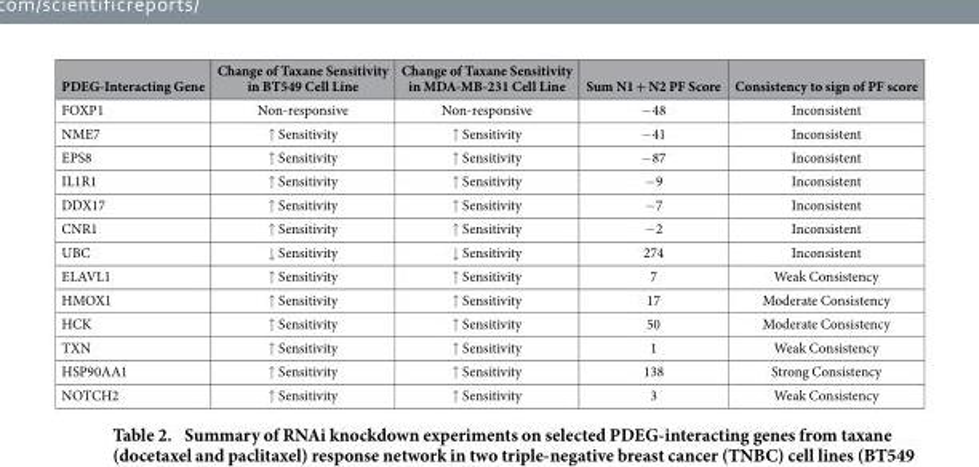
<table><thead><tr><td>PDEG-Interacting Gene</td><td>Change of Taxane Sensitivity in BT549 Cell Line</td><td>Change of Taxane Sensitivity in MDA-MB-231 Cell Line</td><td>Sum N1 + N2 PF Score</td><td>Consistency to sign of PF score</td></tr></thead><tbody><tr><td>FOXP1</td><td>Non-responsive</td><td>Non-responsive</td><td>− 48</td><td>Inconsistent</td></tr><tr><td>NME7</td><td>↑ Sensitivity</td><td>↑ Sensitivity</td><td>− 41</td><td>Inconsistent</td></tr><tr><td>EPS8</td><td>↑ Sensitivity</td><td>↑ Sensitivity</td><td>− 87</td><td>Inconsistent</td></tr><tr><td>IL1R1</td><td>↑ Sensitivity</td><td>↑ Sensitivity</td><td>− 9</td><td>Inconsistent</td></tr><tr><td>DDX17</td><td>↑ Sensitivity</td><td>↑ Sensitivity</td><td>− 7</td><td>Inconsistent</td></tr><tr><td>CNR1</td><td>↑ Sensitivity</td><td>↑ Sensitivity</td><td>− 2</td><td>Inconsistent</td></tr><tr><td>UBC</td><td>↓ Sensitivity</td><td>↓ Sensitivity</td><td>274</td><td>Inconsistent</td></tr><tr><td>ELAVL1</td><td>↑ Sensitivity</td><td>↑ Sensitivity</td><td>7</td><td>Weak Consistency</td></tr><tr><td>HMOX1</td><td>↑ Sensitivity</td><td>↑ Sensitivity</td><td>17</td><td>Moderate Consistency</td></tr><tr><td>HCK</td><td>↑ Sensitivity</td><td>↑ Sensitivity</td><td>50</td><td>Moderate Consistency</td></tr><tr><td>TXN</td><td>↑ Sensitivity</td><td>↑ Sensitivity</td><td>1</td><td>Weak Consistency</td></tr><tr><td>HSP90AA1</td><td>↑ Sensitivity</td><td>↑ Sensitivity</td><td>138</td><td>Strong Consistency</td></tr><tr><td>NOTCH2</td><td>↑ Sensitivity</td><td>↑ Sensitivity</td><td>3</td><td>Weak Consistency</td></tr></tbody></table>